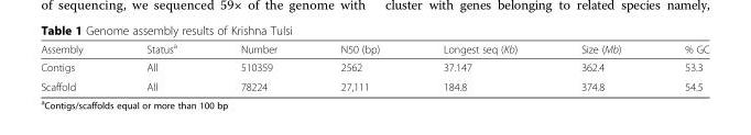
<table><thead><tr><td>Assembly</td><td>Status<sup>a</sup></td><td>Number</td><td>N50 (bp)</td><td>Longest seq (Kb)</td><td>Size (Mb)</td><td>% GC</td></tr></thead><tbody><tr><td>Contigs</td><td>All</td><td>510359</td><td>2562</td><td>37.147</td><td>362.4</td><td>53.3</td></tr><tr><td>Scaffold</td><td>All</td><td>78224</td><td>27,111</td><td>184.8</td><td>374.8</td><td>54.5</td></tr></tbody></table>